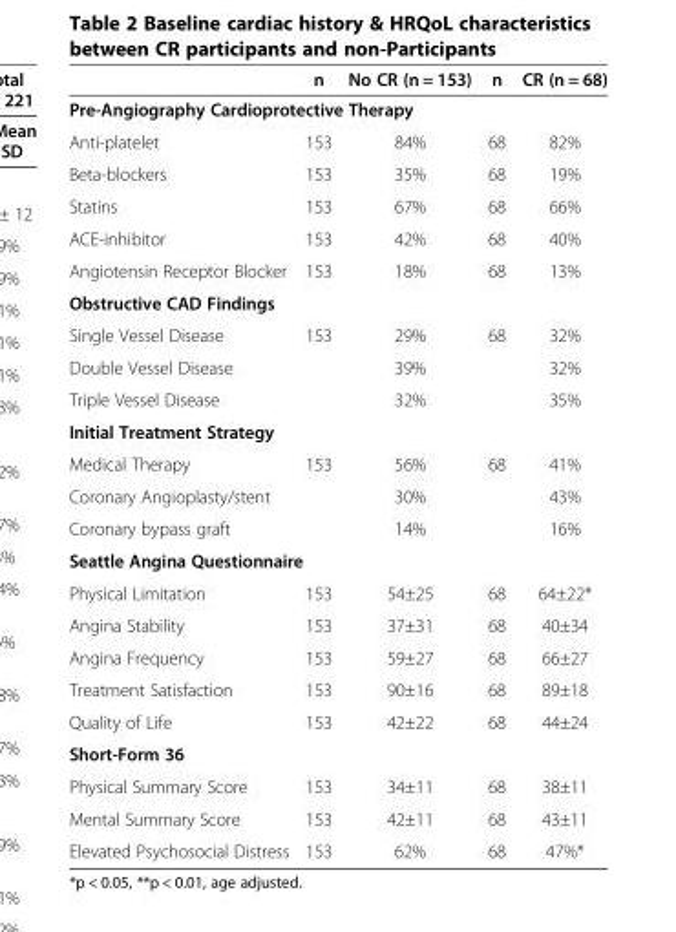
<table><thead><tr><td></td><td>n</td><td>No CR (n = 153)</td><td>n</td><td>CR (n = 68)</td></tr></thead><tbody><tr><td colspan="5">Pre-Angiography Cardioprotective Therapy</td></tr><tr><td>Anti-platelet</td><td>153</td><td>84%</td><td>68</td><td>82%</td></tr><tr><td>Beta-blockers</td><td>153</td><td>35%</td><td>68</td><td>19%</td></tr><tr><td>Statins</td><td>153</td><td>67%</td><td>68</td><td>66%</td></tr><tr><td>ACE-inhibitor</td><td>153</td><td>42%</td><td>68</td><td>40%</td></tr><tr><td>Angiotensin Receptor Blocker</td><td>153</td><td>18%</td><td>68</td><td>13%</td></tr><tr><td colspan="5">Obstructive CAD Findings</td></tr><tr><td>Single Vessel Disease</td><td>153</td><td>29%</td><td>68</td><td>32%</td></tr><tr><td>Double Vessel Disease</td><td></td><td>39%</td><td></td><td>32%</td></tr><tr><td>Triple Vessel Disease</td><td></td><td>32%</td><td></td><td>35%</td></tr><tr><td colspan="5">Initial Treatment Strategy</td></tr><tr><td>Medical Therapy</td><td>153</td><td>56%</td><td>68</td><td>41%</td></tr><tr><td>Coronary Angioplasty/stent</td><td></td><td>30%</td><td></td><td>43%</td></tr><tr><td>Coronary bypass graft</td><td></td><td>14%</td><td></td><td>16%</td></tr><tr><td colspan="5">Seattle Angina Questionnaire</td></tr><tr><td>Physical Limitation</td><td>153</td><td>54±25</td><td>68</td><td>64±22*</td></tr><tr><td>Angina Stability</td><td>153</td><td>37±31</td><td>68</td><td>40±34</td></tr><tr><td>Angina Frequency</td><td>153</td><td>59±27</td><td>68</td><td>66±27</td></tr><tr><td>Treatment Satisfaction</td><td>153</td><td>90±16</td><td>68</td><td>89±18</td></tr><tr><td>Quality of Life</td><td>153</td><td>42±22</td><td>68</td><td>44±24</td></tr><tr><td colspan="5">Short-Form 36</td></tr><tr><td>Physical Summary Score</td><td>153</td><td>34±11</td><td>68</td><td>38±11</td></tr><tr><td>Mental Summary Score</td><td>153</td><td>42±11</td><td>68</td><td>43±11</td></tr><tr><td>Elevated Psychosocial Distress</td><td>153</td><td>62%</td><td>68</td><td>47%*</td></tr></tbody></table>